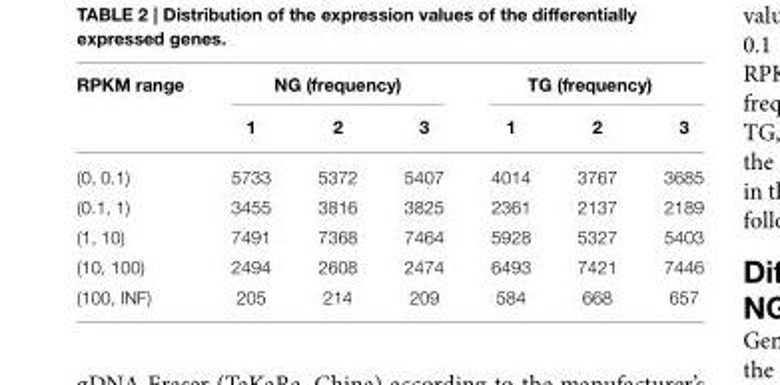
<table><thead><tr><td rowspan="2">RPKM range</td><td colspan="3">NG (frequency)</td><td colspan="3">TG (frequency)</td></tr><tr><td>1</td><td>2</td><td>3</td><td>1</td><td>2</td><td>3</td></tr></thead><tbody><tr><td>(0, 0.1)</td><td>5733</td><td>5372</td><td>5407</td><td>4014</td><td>3767</td><td>3685</td></tr><tr><td>(0.1, 1)</td><td>3455</td><td>3816</td><td>3825</td><td>2361</td><td>2137</td><td>2189</td></tr><tr><td>(1, 10)</td><td>7491</td><td>7368</td><td>7464</td><td>5928</td><td>5327</td><td>5403</td></tr><tr><td>(10, 100)</td><td>2494</td><td>2608</td><td>2474</td><td>6493</td><td>7421</td><td>7446</td></tr><tr><td>(100, INF)</td><td>205</td><td>214</td><td>209</td><td>584</td><td>668</td><td>657</td></tr></tbody></table>